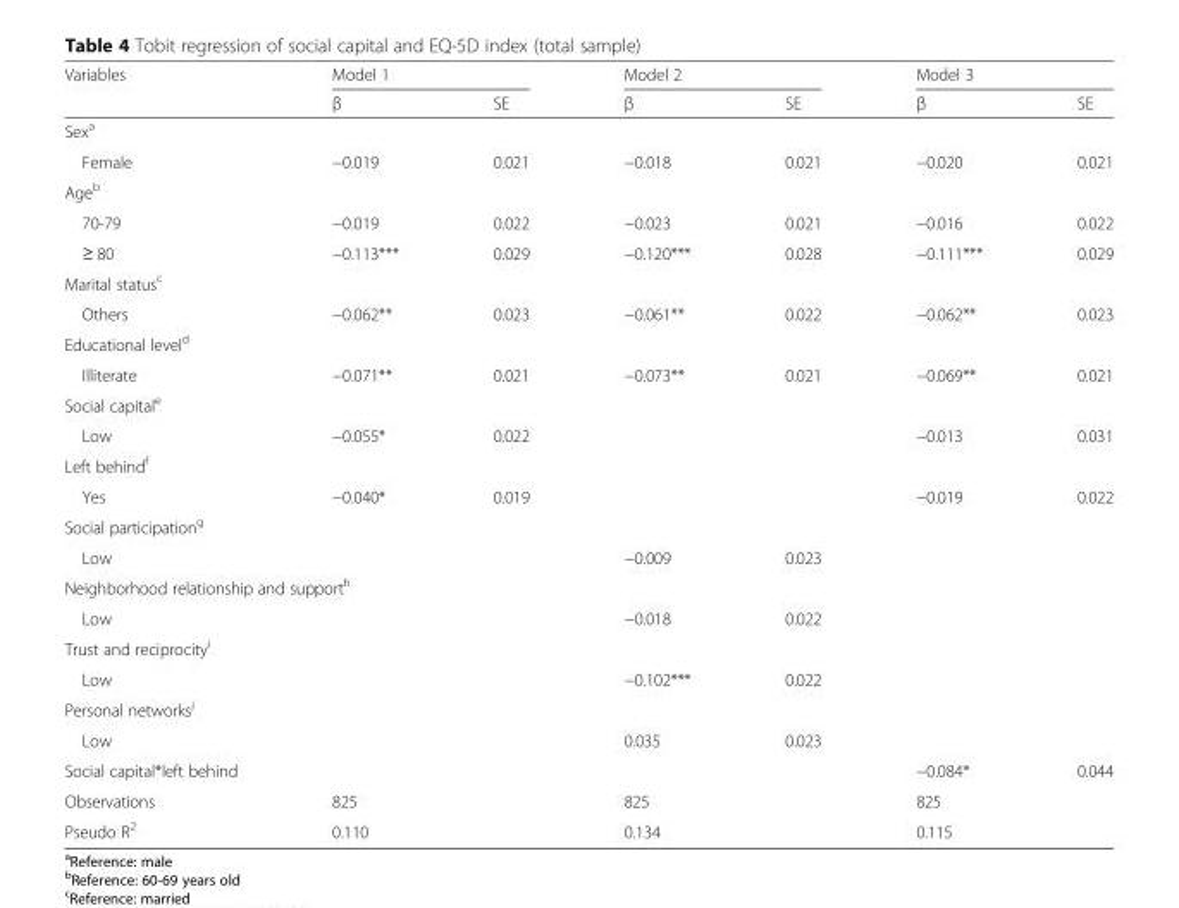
<table><thead><tr><td rowspan="2">Variables</td><td colspan="2">Model 1</td><td colspan="2">Model 2</td><td colspan="2">Model 3</td></tr><tr><td>β</td><td>SE</td><td>β</td><td>SE</td><td>β</td><td>SE</td></tr></thead><tbody><tr><td colspan="7">Sex<sup>a</sup></td></tr><tr><td>Female</td><td>−0.019</td><td>0.021</td><td>−0.018</td><td>0.021</td><td>−0.020</td><td>0.021</td></tr><tr><td colspan="7">Age<sup>b</sup></td></tr><tr><td>70-79</td><td>−0.019</td><td>0.022</td><td>−0.023</td><td>0.021</td><td>−0.016</td><td>0.022</td></tr><tr><td>≥ 80</td><td>−0.113***</td><td>0.029</td><td>−0.120***</td><td>0.028</td><td>−0.111***</td><td>0.029</td></tr><tr><td colspan="7">Marital status<sup>c</sup></td></tr><tr><td>Others</td><td>−0.062**</td><td>0.023</td><td>−0.061**</td><td>0.022</td><td>−0.062**</td><td>0.023</td></tr><tr><td colspan="7">Educational level<sup>d</sup></td></tr><tr><td>Illiterate</td><td>−0.071**</td><td>0.021</td><td>−0.073**</td><td>0.021</td><td>−0.069**</td><td>0.021</td></tr><tr><td colspan="7">Social capital<sup>e</sup></td></tr><tr><td>Low</td><td>−0.055*</td><td>0.022</td><td></td><td></td><td>−0.013</td><td>0.031</td></tr><tr><td colspan="7">Left behind<sup>f</sup></td></tr><tr><td>Yes</td><td>−0.040*</td><td>0.019</td><td></td><td></td><td>−0.019</td><td>0.022</td></tr><tr><td colspan="7">Social participation<sup>g</sup></td></tr><tr><td>Low</td><td></td><td></td><td>−0.009</td><td>0.023</td><td></td><td></td></tr><tr><td colspan="7">Neighborhood relationship and support<sup>h</sup></td></tr><tr><td>Low</td><td></td><td></td><td>−0.018</td><td>0.022</td><td></td><td></td></tr><tr><td colspan="7">Trust and reciprocity<sup>i</sup></td></tr><tr><td>Low</td><td></td><td></td><td>−0.102***</td><td>0.022</td><td></td><td></td></tr><tr><td colspan="7">Personal networks<sup>j</sup></td></tr><tr><td>Low</td><td></td><td></td><td>0.035</td><td>0.023</td><td></td><td></td></tr><tr><td>Social capital*left behind</td><td></td><td></td><td></td><td></td><td>−0.084*</td><td>0.044</td></tr><tr><td>Observations</td><td colspan="2">825</td><td colspan="2">825</td><td colspan="2">825</td></tr><tr><td>Pseudo R<sup>2</sup></td><td colspan="2">0.110</td><td colspan="2">0.134</td><td colspan="2">0.115</td></tr></tbody></table>